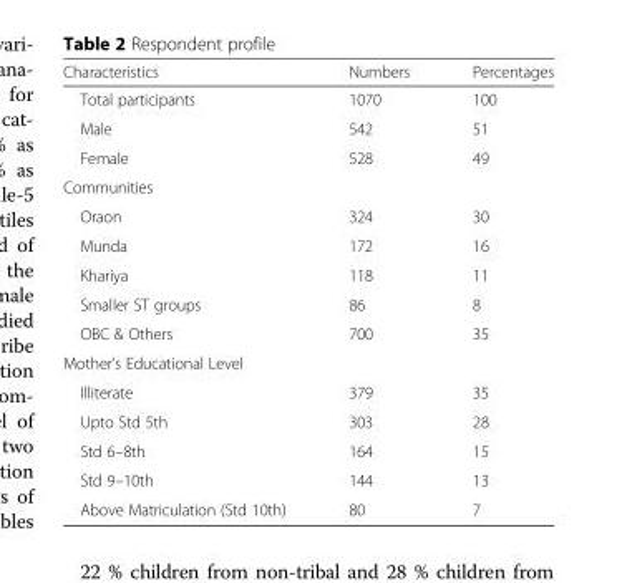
<table><thead><tr><td>Characteristics</td><td>Numbers</td><td>Percentages</td></tr></thead><tbody><tr><td>Total participants</td><td>1070</td><td>100</td></tr><tr><td>Male</td><td>542</td><td>51</td></tr><tr><td>Female</td><td>528</td><td>49</td></tr><tr><td colspan="3">Communities</td></tr><tr><td>Oraon</td><td>324</td><td>30</td></tr><tr><td>Munda</td><td>172</td><td>16</td></tr><tr><td>Khariya</td><td>118</td><td>11</td></tr><tr><td>Smaller ST groups</td><td>86</td><td>8</td></tr><tr><td>OBC &amp; Others</td><td>700</td><td>35</td></tr><tr><td colspan="3">Mother’s Educational Level</td></tr><tr><td>Illiterate</td><td>379</td><td>35</td></tr><tr><td>Upto Std 5th</td><td>303</td><td>28</td></tr><tr><td>Std 6–8th</td><td>164</td><td>15</td></tr><tr><td>Std 9–10th</td><td>144</td><td>13</td></tr><tr><td>Above Matriculation (Std 10th)</td><td>80</td><td>7</td></tr></tbody></table>